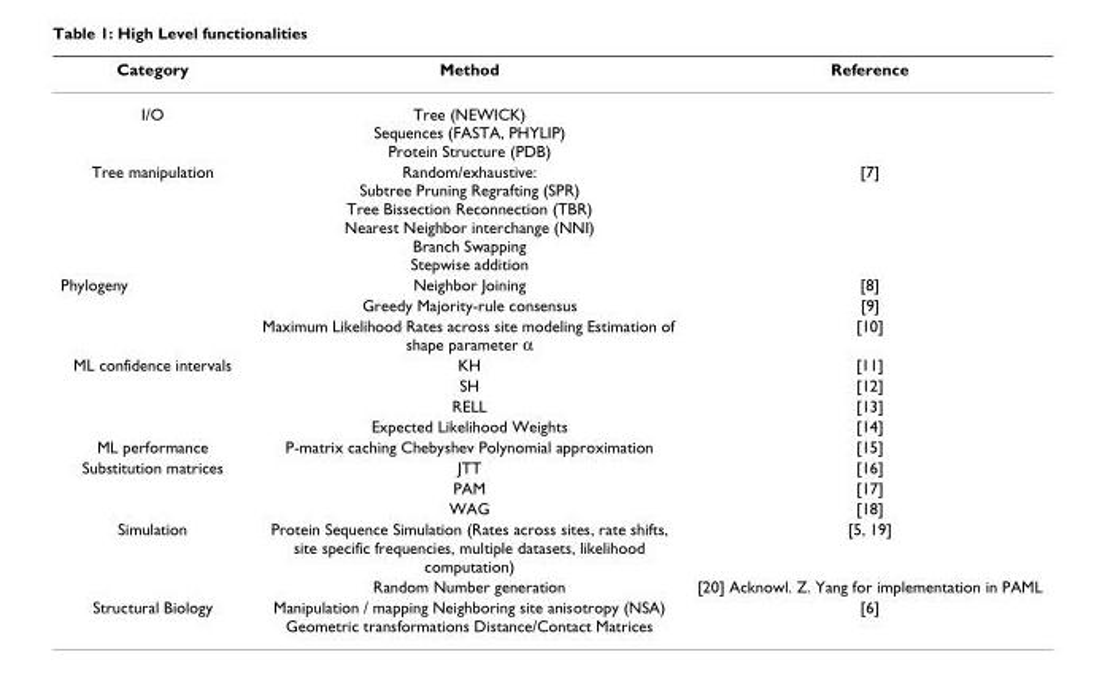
<table><thead><tr><td>Category</td><td>Method</td><td>Reference</td></tr></thead><tbody><tr><td>I/O</td><td>Tree (NEWICK) Sequences (FASTA, PHYLIP) Protein Structure (PDB)</td><td></td></tr><tr><td>Tree manipulation</td><td>Random/exhaustive: Subtree Pruning Regrafting (SPR) Tree Bissection Reconnection (TBR) Nearest Neighbor interchange (NNI) Branch Swapping Stepwise addition</td><td>[7]</td></tr><tr><td rowspan="3">Phylogeny</td><td>Neighbor Joining</td><td>[8]</td></tr><tr><td>Greedy Majority-rule consensus</td><td>[9]</td></tr><tr><td>Maximum Likelihood Rates across site modeling Estimation of shape parameter α</td><td>[10]</td></tr><tr><td rowspan="4">ML confidence intervals</td><td>KH</td><td>[11]</td></tr><tr><td>SH</td><td>[12]</td></tr><tr><td>RELL</td><td>[13]</td></tr><tr><td>Expected Likelihood Weights</td><td>[14]</td></tr><tr><td>ML performance</td><td>P-matrix caching Chebyshev Polynomial approximation</td><td>[15]</td></tr><tr><td rowspan="3">Substitution matrices</td><td>JTT</td><td>[16]</td></tr><tr><td>PAM</td><td>[17]</td></tr><tr><td>WAG</td><td>[18]</td></tr><tr><td rowspan="2">Simulation</td><td>Protein Sequence Simulation (Rates across sites, rate shifts, site specific frequencies, multiple datasets, likelihood computation)</td><td>[5, 19]</td></tr><tr><td>Random Number generation</td><td>[20] Acknowl. Z. Yang for implementation in PAML</td></tr><tr><td>Structural Biology</td><td>Manipulation / mapping Neighboring site anisotropy (NSA) Geometric transformations Distance/Contact Matrices</td><td>[6]</td></tr></tbody></table>